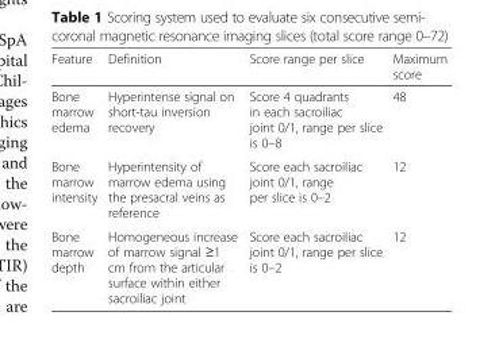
<table><thead><tr><td>Feature</td><td>Definition</td><td>Score range per slice</td><td>Maximum score</td></tr></thead><tbody><tr><td>Bone marrow edema</td><td>Hyperintense signal on short-tau inversion recovery</td><td>Score 4 quadrants in each sacroiliac joint 0/1, range per slice is 0–8</td><td>48</td></tr><tr><td>Bone marrow intensity</td><td>Hyperintensity of marrow edema using the presacral veins as reference</td><td>Score each sacroiliac joint 0/1, range per slice is 0–2</td><td>12</td></tr><tr><td>Bone marrow depth</td><td>Homogeneous increase of marrow signal ≥1 cm from the articular surface within either sacroiliac joint</td><td>Score each sacroiliac joint 0/1, range per slice is 0–2</td><td>12</td></tr></tbody></table>